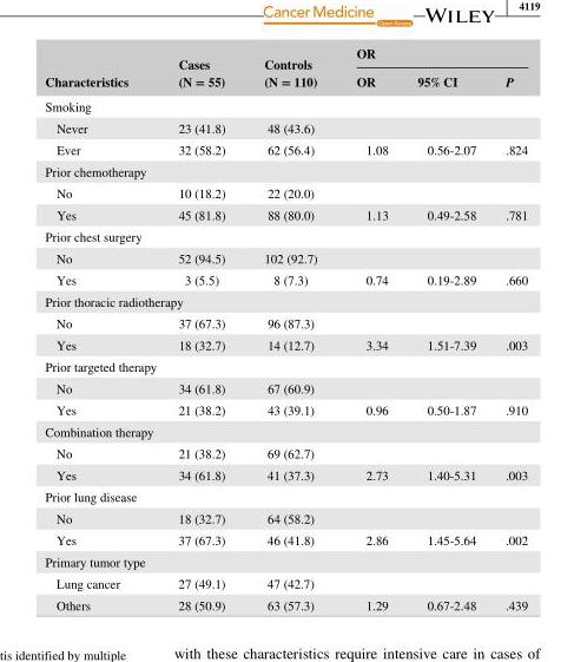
<table><thead><tr><td rowspan="2">Characteristics</td><td rowspan="2">Cases (N = 55)</td><td rowspan="2">Controls (N = 110)</td><td colspan="3">OR</td></tr><tr><td>OR</td><td>95% CI</td><td>P</td></tr></thead><tbody><tr><td colspan="6">Smoking</td></tr><tr><td>Never</td><td>23 (41.8)</td><td>48 (43.6)</td><td></td><td></td><td></td></tr><tr><td>Ever</td><td>32 (58.2)</td><td>62 (56.4)</td><td>1.08</td><td>0.56- 2.07</td><td>.824</td></tr><tr><td colspan="6">Prior chemotherapy</td></tr><tr><td>No</td><td>10 (18.2)</td><td>22 (20.0)</td><td></td><td></td><td></td></tr><tr><td>Yes</td><td>45 (81.8)</td><td>88 (80.0)</td><td>1.13</td><td>0.49- 2.58</td><td>.781</td></tr><tr><td colspan="6">Prior chest surgery</td></tr><tr><td>No</td><td>52 (94.5)</td><td>102 (92.7)</td><td></td><td></td><td></td></tr><tr><td>Yes</td><td>3 (5.5)</td><td>8 (7.3)</td><td>0.74</td><td>0.19- 2.89</td><td>.660</td></tr><tr><td colspan="6">Prior thoracic radiotherapy</td></tr><tr><td>No</td><td>37 (67.3)</td><td>96 (87.3)</td><td></td><td></td><td></td></tr><tr><td>Yes</td><td>18 (32.7)</td><td>14 (12.7)</td><td>3.34</td><td>1.51- 7.39</td><td>.003</td></tr><tr><td colspan="6">Prior targeted therapy</td></tr><tr><td>No</td><td>34 (61.8)</td><td>67 (60.9)</td><td></td><td></td><td></td></tr><tr><td>Yes</td><td>21 (38.2)</td><td>43 (39.1)</td><td>0.96</td><td>0.50- 1.87</td><td>.910</td></tr><tr><td colspan="6">Combination therapy</td></tr><tr><td>No</td><td>21 (38.2)</td><td>69 (62.7)</td><td></td><td></td><td></td></tr><tr><td>Yes</td><td>34 (61.8)</td><td>41 (37.3)</td><td>2.73</td><td>1.40- 5.31</td><td>.003</td></tr><tr><td colspan="6">Prior lung disease</td></tr><tr><td>No</td><td>18 (32.7)</td><td>64 (58.2)</td><td></td><td></td><td></td></tr><tr><td>Yes</td><td>37 (67.3)</td><td>46 (41.8)</td><td>2.86</td><td>1.45- 5.64</td><td>.002</td></tr><tr><td colspan="6">Primary tumor type</td></tr><tr><td>Lung cancer</td><td>27 (49.1)</td><td>47 (42.7)</td><td></td><td></td><td></td></tr><tr><td>Others</td><td>28 (50.9)</td><td>63 (57.3)</td><td>1.29</td><td>0.67- 2.48</td><td>.439</td></tr></tbody></table>